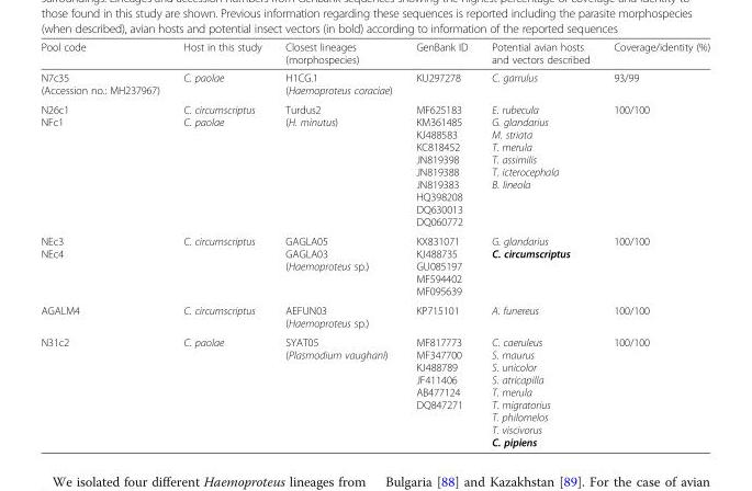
<table><thead><tr><td>Pool code</td><td>Host in this study</td><td>Closest lineages (morphospecies)</td><td>GenBank ID</td><td>Potential avian hosts and vectors described</td><td>Coverage/identity (%)</td></tr></thead><tbody><tr><td>N7c35 (Accession no.: MH237967)</td><td>C. paolae</td><td>H1CG.1 (Haemoproteus coraciae)</td><td>KU297278</td><td>C. garrulus</td><td>93/99</td></tr><tr><td>N26c1 NFc1</td><td>C. circumscriptus C. paolae</td><td>Turdus2 (H. minutus)</td><td>MF625183 KM361485 KJ488583 KC818452 JN819398 JN819388 JN819383 HQ398208 DQ630013 DQ060772</td><td>E. rubecula G. glandarius M. striata T. merula T. assimilis T. icterocephala B. lineola</td><td>100/100</td></tr><tr><td>NEc3 NEc4</td><td>C. circumscriptus</td><td>GAGLA05 GAGLA03 (Haemoproteus sp.)</td><td>KX831071 KJ488735 GU085197 MF594402 MF095639</td><td>G. glandarius C. circumscriptus</td><td>100/100</td></tr><tr><td>AGALM4</td><td>C. circumscriptus</td><td>AEFUN03 (Haemoproteus sp.)</td><td>KP715101</td><td>A. funereus</td><td>100/100</td></tr><tr><td>N31c2</td><td>C. paolae</td><td>SYAT05 (Plasmodium vaughani)</td><td>MF817773 MF347700 KJ488789 JF411406 AB477124 DQ847271</td><td>C. caeruleus S. maurus S. unicolor S. atricapilla T. merula T. migratorius T. philomelos T. viscivorus C. pipiens</td><td>100/100</td></tr></tbody></table>